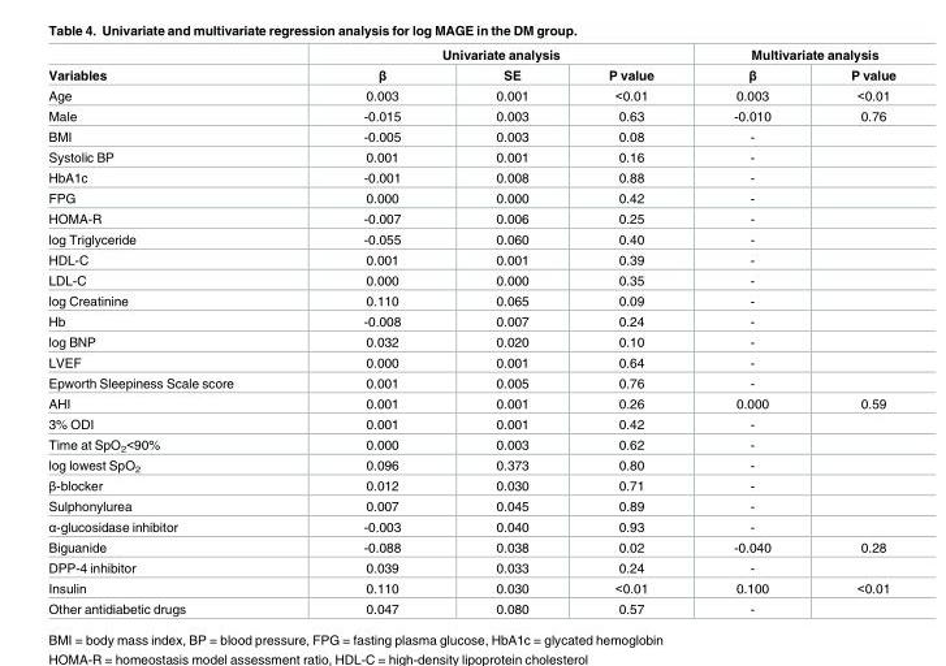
<table><thead><tr><td rowspan="2">Variables</td><td colspan="3">Univariate analysis</td><td colspan="2">Multivariate analysis</td></tr><tr><td>β</td><td>SE</td><td>P value</td><td>β</td><td>P value</td></tr></thead><tbody><tr><td>Age</td><td>0.003</td><td>0.001</td><td>&lt;0.01</td><td>0.003</td><td>&lt;0.01</td></tr><tr><td>Male</td><td>-0.015</td><td>0.003</td><td>0.63</td><td>-0.010</td><td>0.76</td></tr><tr><td>BMI</td><td>-0.005</td><td>0.003</td><td>0.08</td><td>-</td><td></td></tr><tr><td>Systolic BP</td><td>0.001</td><td>0.001</td><td>0.16</td><td>-</td><td></td></tr><tr><td>HbA1c</td><td>-0.001</td><td>0.008</td><td>0.88</td><td>-</td><td></td></tr><tr><td>FPG</td><td>0.000</td><td>0.000</td><td>0.42</td><td>-</td><td></td></tr><tr><td>HOMA-R</td><td>-0.007</td><td>0.006</td><td>0.25</td><td>-</td><td></td></tr><tr><td>log Triglyceride</td><td>-0.055</td><td>0.060</td><td>0.40</td><td>-</td><td></td></tr><tr><td>HDL-C</td><td>0.001</td><td>0.001</td><td>0.39</td><td>-</td><td></td></tr><tr><td>LDL-C</td><td>0.000</td><td>0.000</td><td>0.35</td><td>-</td><td></td></tr><tr><td>log Creatinine</td><td>0.110</td><td>0.065</td><td>0.09</td><td>-</td><td></td></tr><tr><td>Hb</td><td>-0.008</td><td>0.007</td><td>0.24</td><td>-</td><td></td></tr><tr><td>log BNP</td><td>0.032</td><td>0.020</td><td>0.10</td><td>-</td><td></td></tr><tr><td>LVEF</td><td>0.000</td><td>0.001</td><td>0.64</td><td>-</td><td></td></tr><tr><td>Epworth Sleepiness Scale score</td><td>0.001</td><td>0.005</td><td>0.76</td><td>-</td><td></td></tr><tr><td>AHI</td><td>0.001</td><td>0.001</td><td>0.26</td><td>0.000</td><td>0.59</td></tr><tr><td>3% ODI</td><td>0.001</td><td>0.001</td><td>0.42</td><td>-</td><td></td></tr><tr><td>Time at SpO<sub>2</sub>&lt;90%</td><td>0.000</td><td>0.003</td><td>0.62</td><td>-</td><td></td></tr><tr><td>log lowest SpO<sub>2</sub></td><td>0.096</td><td>0.373</td><td>0.80</td><td>-</td><td></td></tr><tr><td>β-blocker</td><td>0.012</td><td>0.030</td><td>0.71</td><td>-</td><td></td></tr><tr><td>Sulphonylurea</td><td>0.007</td><td>0.045</td><td>0.89</td><td>-</td><td></td></tr><tr><td>α-glucosidase inhibitor</td><td>-0.003</td><td>0.040</td><td>0.93</td><td>-</td><td></td></tr><tr><td>Biguanide</td><td>-0.088</td><td>0.038</td><td>0.02</td><td>-0.040</td><td>0.28</td></tr><tr><td>DPP-4 inhibitor</td><td>0.039</td><td>0.033</td><td>0.24</td><td>-</td><td></td></tr><tr><td>Insulin</td><td>0.110</td><td>0.030</td><td>&lt;0.01</td><td>0.100</td><td>&lt;0.01</td></tr><tr><td>Other antidiabetic drugs</td><td>0.047</td><td>0.080</td><td>0.57</td><td>-</td><td></td></tr></tbody></table>